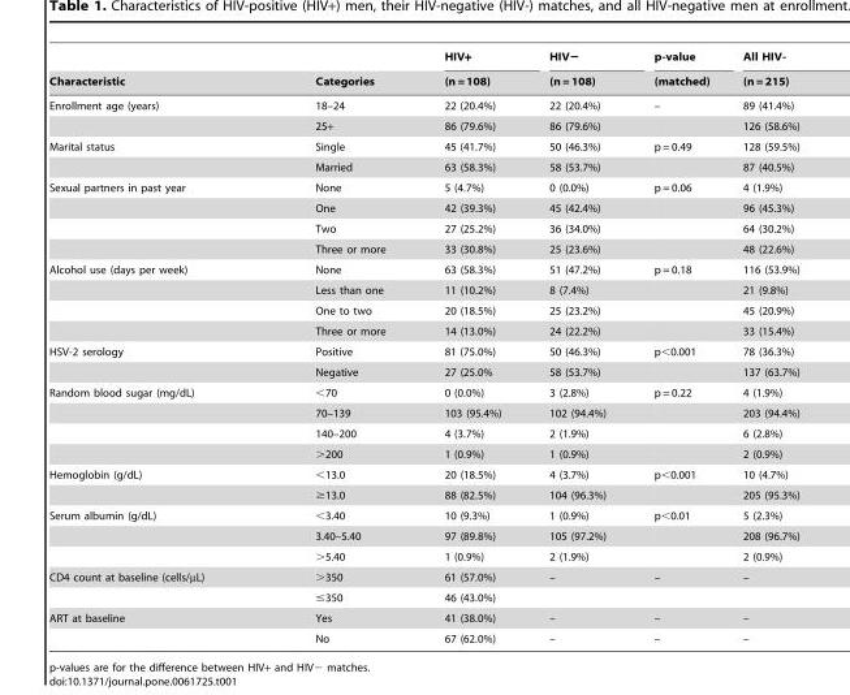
<table><thead><tr><td rowspan="2">Characteristic</td><td rowspan="2">Categories</td><td rowspan="2">HIV+ (n = 108)</td><td rowspan="2">HIV− (n = 108)</td><td rowspan="2">p-value (matched)</td><td rowspan="2">All HIV- (n = 215)</td></tr><tr></tr></thead><tbody><tr><td rowspan="2">Enrollment age (years)</td><td>18–24</td><td>22 (20.4%)</td><td>22 (20.4%)</td><td>–</td><td>89 (41.4%)</td></tr><tr><td>25+</td><td>86 (79.6%)</td><td>86 (79.6%)</td><td></td><td>126 (58.6%)</td></tr><tr><td rowspan="2">Marital status</td><td>Single</td><td>45 (41.7%)</td><td>50 (46.3%)</td><td>p = 0.49</td><td>128 (59.5%)</td></tr><tr><td>Married</td><td>63 (58.3%)</td><td>58 (53.7%)</td><td></td><td>87 (40.5%)</td></tr><tr><td rowspan="4">Sexual partners in past year</td><td>None</td><td>5 (4.7%)</td><td>0 (0.0%)</td><td>p = 0.06</td><td>4 (1.9%)</td></tr><tr><td>One</td><td>42 (39.3%)</td><td>45 (42.4%)</td><td></td><td>96 (45.3%)</td></tr><tr><td>Two</td><td>27 (25.2%)</td><td>36 (34.0%)</td><td></td><td>64 (30.2%)</td></tr><tr><td>Three or more</td><td>33 (30.8%)</td><td>25 (23.6%)</td><td></td><td>48 (22.6%)</td></tr><tr><td rowspan="4">Alcohol use (days per week)</td><td>None</td><td>63 (58.3%)</td><td>51 (47.2%)</td><td>p = 0.18</td><td>116 (53.9%)</td></tr><tr><td>Less than one</td><td>11 (10.2%)</td><td>8 (7.4%)</td><td></td><td>21 (9.8%)</td></tr><tr><td>One to two</td><td>20 (18.5%)</td><td>25 (23.2%)</td><td></td><td>45 (20.9%)</td></tr><tr><td>Three or more</td><td>14 (13.0%)</td><td>24 (22.2%)</td><td></td><td>33 (15.4%)</td></tr><tr><td rowspan="2">HSV-2 serology</td><td>Positive</td><td>81 (75.0%)</td><td>50 (46.3%)</td><td>p&lt;0.001</td><td>78 (36.3%)</td></tr><tr><td>Negative</td><td>27 (25.0%</td><td>58 (53.7%)</td><td></td><td>137 (63.7%)</td></tr><tr><td rowspan="4">Random blood sugar (mg/dL)</td><td>&lt;70</td><td>0 (0.0%)</td><td>3 (2.8%)</td><td>p = 0.22</td><td>4 (1.9%)</td></tr><tr><td>70–139</td><td>103 (95.4%)</td><td>102 (94.4%)</td><td></td><td>203 (94.4%)</td></tr><tr><td>140–200</td><td>4 (3.7%)</td><td>2 (1.9%)</td><td></td><td>6 (2.8%)</td></tr><tr><td>&gt;200</td><td>1 (0.9%)</td><td>1 (0.9%)</td><td></td><td>2 (0.9%)</td></tr><tr><td rowspan="2">Hemoglobin (g/dL)</td><td>&lt;13.0</td><td>20 (18.5%)</td><td>4 (3.7%)</td><td>p&lt;0.001</td><td>10 (4.7%)</td></tr><tr><td>≥13.0</td><td>88 (82.5%)</td><td>104 (96.3%)</td><td></td><td>205 (95.3%)</td></tr><tr><td rowspan="3">Serum albumin (g/dL)</td><td>&lt;3.40</td><td>10 (9.3%)</td><td>1 (0.9%)</td><td>p&lt;0.01</td><td>5 (2.3%)</td></tr><tr><td>3.40–5.40</td><td>97 (89.8%)</td><td>105 (97.2%)</td><td></td><td>208 (96.7%)</td></tr><tr><td>&gt;5.40</td><td>1 (0.9%)</td><td>2 (1.9%)</td><td></td><td>2 (0.9%)</td></tr><tr><td rowspan="2">CD4 count at baseline (cells/µL)</td><td>&gt;350</td><td>61 (57.0%)</td><td>–</td><td>–</td><td>–</td></tr><tr><td>≤350</td><td>46 (43.0%)</td><td></td><td></td><td></td></tr><tr><td rowspan="2">ART at baseline</td><td>Yes</td><td>41 (38.0%)</td><td>–</td><td>–</td><td>–</td></tr><tr><td>No</td><td>67 (62.0%)</td><td>–</td><td>–</td><td>–</td></tr></tbody></table>